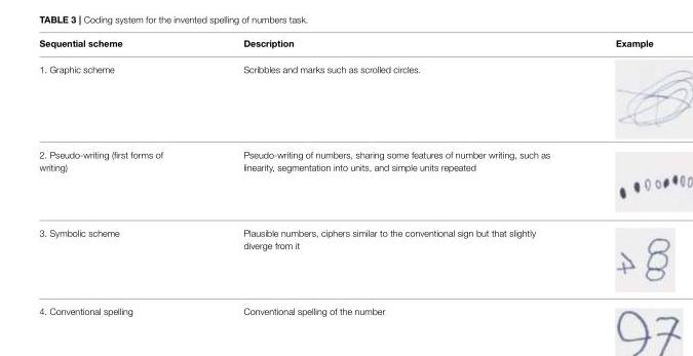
<table><thead><tr><td>Sequential scheme</td><td>Description</td><td>Example</td></tr></thead><tbody><tr><td>1. Graphic scheme</td><td>Scribbles and marks such as scrolled circles.</td><td></td></tr><tr><td>2. Pseudo-writing (first forms of writing)</td><td>Pseudo-writing of numbers, sharing some features of number writing, such as linearity, segmentation into units, and simple units repeated</td><td></td></tr><tr><td>3. Symbolic scheme</td><td>Plausible numbers, ciphers similar to the conventional sign but that slightly diverge from it</td><td></td></tr><tr><td>4. Conventional spelling</td><td>Conventional spelling of the number</td><td></td></tr></tbody></table>